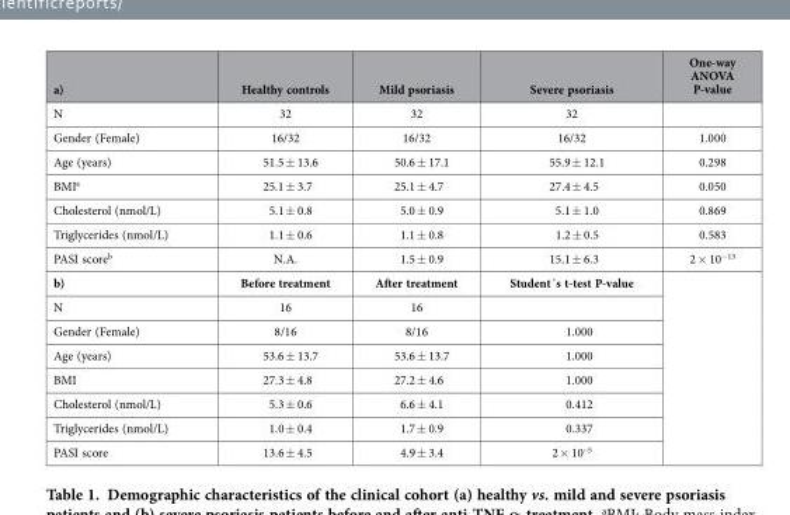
<table><thead><tr><td>a)</td><td>Healthy controls</td><td>Mild psoriasis</td><td>Severe psoriasis</td><td>One-way ANOVA P-value</td></tr></thead><tbody><tr><td>N</td><td>32</td><td>32</td><td>32</td><td></td></tr><tr><td>Gender (Female)</td><td>16/32</td><td>16/32</td><td>16/32</td><td>1.000</td></tr><tr><td>Age (years)</td><td>51.5 ± 13.6</td><td>50.6 ± 17.1</td><td>55.9 ± 12.1</td><td>0.298</td></tr><tr><td>BMI<sup>a</sup></td><td>25.1 ± 3.7</td><td>25.1 ± 4.7</td><td>27.4 ± 4.5</td><td>0.050</td></tr><tr><td>Cholesterol (nmol/L)</td><td>5.1 ± 0.8</td><td>5.0 ± 0.9</td><td>5.1 ± 1.0</td><td>0.869</td></tr><tr><td>Triglycerides (nmol/L)</td><td>1.1 ± 0.6</td><td>1.1 ± 0.8</td><td>1.2 ± 0.5</td><td>0.583</td></tr><tr><td>PASI score<sup>b</sup></td><td>N.A.</td><td>1.5 ± 0.9</td><td>15.1 ± 6.3</td><td>2 × 10<sup>−13</sup></td></tr><tr><td>b)</td><td>Before treatment</td><td>After treatment</td><td>Student´s t-test P-value</td><td rowspan="8"></td></tr><tr><td>N</td><td>16</td><td>16</td><td></td></tr><tr><td>Gender (Female)</td><td>8/16</td><td>8/16</td><td>1.000</td></tr><tr><td>Age (years)</td><td>53.6 ± 13.7</td><td>53.6 ± 13.7</td><td>1.000</td></tr><tr><td>BMI</td><td>27.3 ± 4.8</td><td>27.2 ± 4.6</td><td>1.000</td></tr><tr><td>Cholesterol (nmol/L)</td><td>5.3 ± 0.6</td><td>6.6 ± 4.1</td><td>0.412</td></tr><tr><td>Triglycerides (nmol/L)</td><td>1.0 ± 0.4</td><td>1.7 ± 0.9</td><td>0.337</td></tr><tr><td>PASI score</td><td>13.6 ± 4.5</td><td>4.9 ± 3.4</td><td>2 × 10<sup>-5</sup></td></tr></tbody></table>